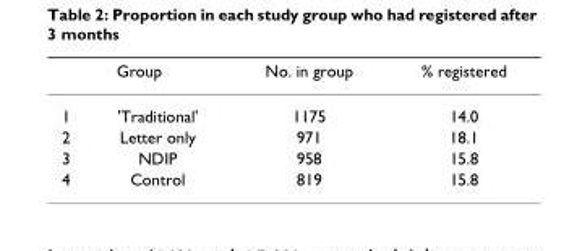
<table><thead><tr><td colspan="2">Group</td><td rowspan="2">No. in group 1175</td><td rowspan="2">% registered 14.0</td></tr><tr><td>1</td><td>&#x27;Traditional&#x27;</td></tr></thead><tbody><tr><td>2</td><td>Letter only</td><td>971</td><td>18.1</td></tr><tr><td>3</td><td>NDIP</td><td>958</td><td>15.8</td></tr><tr><td>4</td><td>Control</td><td>819</td><td>15.8</td></tr></tbody></table>